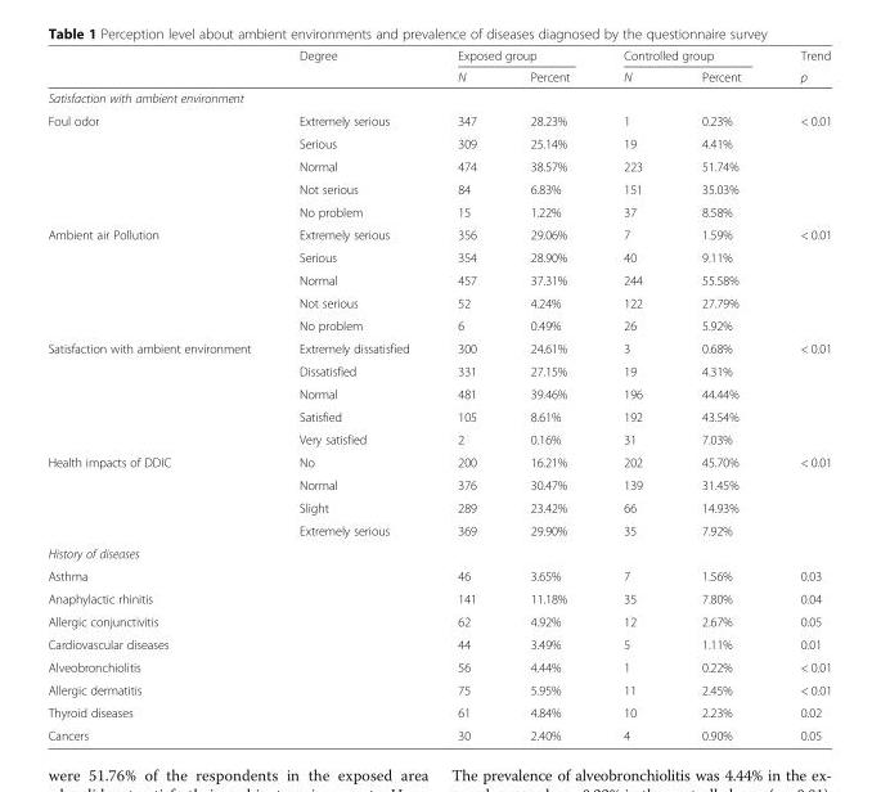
<table><thead><tr><td rowspan="2"></td><td rowspan="2">Degree</td><td colspan="2">Exposed group</td><td colspan="2">Controlled group</td><td rowspan="2">Trend p</td></tr><tr><td>N</td><td>Percent</td><td>N</td><td>Percent</td></tr></thead><tbody><tr><td colspan="7">Satisfaction with ambient environment</td></tr><tr><td rowspan="5">Foul odor</td><td>Extremely serious</td><td>347</td><td>28.23%</td><td>1</td><td>0.23%</td><td rowspan="5">&lt; 0.01</td></tr><tr><td>Serious</td><td>309</td><td>25.14%</td><td>19</td><td>4.41%</td></tr><tr><td>Normal</td><td>474</td><td>38.57%</td><td>223</td><td>51.74%</td></tr><tr><td>Not serious</td><td>84</td><td>6.83%</td><td>151</td><td>35.03%</td></tr><tr><td>No problem</td><td>15</td><td>1.22%</td><td>37</td><td>8.58%</td></tr><tr><td rowspan="5">Ambient air Pollution</td><td>Extremely serious</td><td>356</td><td>29.06%</td><td>7</td><td>1.59%</td><td rowspan="5">&lt; 0.01</td></tr><tr><td>Serious</td><td>354</td><td>28.90%</td><td>40</td><td>9.11%</td></tr><tr><td>Normal</td><td>457</td><td>37.31%</td><td>244</td><td>55.58%</td></tr><tr><td>Not serious</td><td>52</td><td>4.24%</td><td>122</td><td>27.79%</td></tr><tr><td>No problem</td><td>6</td><td>0.49%</td><td>26</td><td>5.92%</td></tr><tr><td rowspan="5">Satisfaction with ambient environment</td><td>Extremely dissatisfied</td><td>300</td><td>24.61%</td><td>3</td><td>0.68%</td><td rowspan="5">&lt; 0.01</td></tr><tr><td>Dissatisfied</td><td>331</td><td>27.15%</td><td>19</td><td>4.31%</td></tr><tr><td>Normal</td><td>481</td><td>39.46%</td><td>196</td><td>44.44%</td></tr><tr><td>Satisfied</td><td>105</td><td>8.61%</td><td>192</td><td>43.54%</td></tr><tr><td>Very satisfied</td><td>2</td><td>0.16%</td><td>31</td><td>7.03%</td></tr><tr><td rowspan="4">Health impacts of DDIC</td><td>No</td><td>200</td><td>16.21%</td><td>202</td><td>45.70%</td><td rowspan="4">&lt; 0.01</td></tr><tr><td>Normal</td><td>376</td><td>30.47%</td><td>139</td><td>31.45%</td></tr><tr><td>Slight</td><td>289</td><td>23.42%</td><td>66</td><td>14.93%</td></tr><tr><td>Extremely serious</td><td>369</td><td>29.90%</td><td>35</td><td>7.92%</td></tr><tr><td colspan="7">History of diseases</td></tr><tr><td>Asthma</td><td></td><td>46</td><td>3.65%</td><td>7</td><td>1.56%</td><td>0.03</td></tr><tr><td>Anaphylactic rhinitis</td><td></td><td>141</td><td>11.18%</td><td>35</td><td>7.80%</td><td>0.04</td></tr><tr><td>Allergic conjunctivitis</td><td></td><td>62</td><td>4.92%</td><td>12</td><td>2.67%</td><td>0.05</td></tr><tr><td>Cardiovascular diseases</td><td></td><td>44</td><td>3.49%</td><td>5</td><td>1.11%</td><td>0.01</td></tr><tr><td>Alveobronchiolitis</td><td></td><td>56</td><td>4.44%</td><td>1</td><td>0.22%</td><td>&lt; 0.01</td></tr><tr><td>Allergic dermatitis</td><td></td><td>75</td><td>5.95%</td><td>11</td><td>2.45%</td><td>&lt; 0.01</td></tr><tr><td>Thyroid diseases</td><td></td><td>61</td><td>4.84%</td><td>10</td><td>2.23%</td><td>0.02</td></tr><tr><td>Cancers</td><td></td><td>30</td><td>2.40%</td><td>4</td><td>0.90%</td><td>0.05</td></tr></tbody></table>